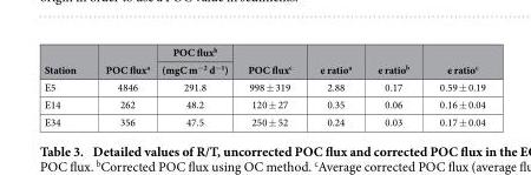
<table><thead><tr><td rowspan="2">Station</td><td rowspan="2">POC flux<sup>a</sup></td><td rowspan="2">POC flux<sup>b</sup> (mgC m<sup>−2</sup> d<sup>−1</sup>)</td><td rowspan="2">POC flux<sup>c</sup></td><td rowspan="2">e ratio<sup>a</sup></td><td rowspan="2">e ratio<sup>b</sup></td><td rowspan="2">e ratio<sup>c</sup></td></tr><tr></tr></thead><tbody><tr><td>E5</td><td>4846</td><td>291.8</td><td>998 ± 319</td><td>2.88</td><td>0.17</td><td>0.59 ± 0.19</td></tr><tr><td>E14</td><td>262</td><td>48.2</td><td>120 ± 27</td><td>0.35</td><td>0.06</td><td>0.16 ± 0.04</td></tr><tr><td>E34</td><td>356</td><td>47.5</td><td>250 ± 52</td><td>0.24</td><td>0.03</td><td>0.17 ± 0.04</td></tr></tbody></table>